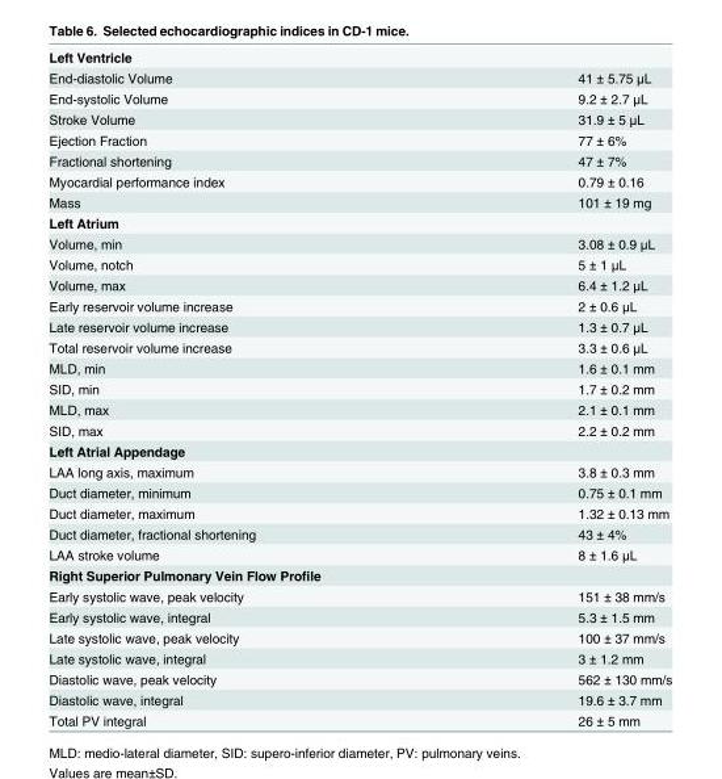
<table><tbody><tr><td colspan="2">Left Ventricle</td></tr><tr><td>End-diastolic Volume</td><td>41 ± 5.75 μL</td></tr><tr><td>End-systolic Volume</td><td>9.2 ± 2.7 μL</td></tr><tr><td>Stroke Volume</td><td>31.9 ± 5 μL</td></tr><tr><td>Ejection Fraction</td><td>77 ± 6%</td></tr><tr><td>Fractional shortening</td><td>47 ± 7%</td></tr><tr><td>Myocardial performance index</td><td>0.79 ± 0.16</td></tr><tr><td>Mass</td><td>101 ± 19 mg</td></tr><tr><td colspan="2">Left Atrium</td></tr><tr><td>Volume, min</td><td>3.08 ± 0.9 μL</td></tr><tr><td>Volume, notch</td><td>5 ± 1 μL</td></tr><tr><td>Volume, max</td><td>6.4 ± 1.2 μL</td></tr><tr><td>Early reservoir volume increase</td><td>2 ± 0.6 μL</td></tr><tr><td>Late reservoir volume increase</td><td>1.3 ± 0.7 μL</td></tr><tr><td>Total reservoir volume increase</td><td>3.3 ± 0.6 μL</td></tr><tr><td>MLD, min</td><td>1.6 ± 0.1 mm</td></tr><tr><td>SID, min</td><td>1.7 ± 0.2 mm</td></tr><tr><td>MLD, max</td><td>2.1 ± 0.1 mm</td></tr><tr><td>SID, max</td><td>2.2 ± 0.2 mm</td></tr><tr><td colspan="2">Left Atrial Appendage</td></tr><tr><td>LAA long axis, maximum</td><td>3.8 ± 0.3 mm</td></tr><tr><td>Duct diameter, minimum</td><td>0.75 ± 0.1 mm</td></tr><tr><td>Duct diameter, maximum</td><td>1.32 ± 0.13 mm</td></tr><tr><td>Duct diameter, fractional shortening</td><td>43 ± 4%</td></tr><tr><td>LAA stroke volume</td><td>8 ± 1.6 μL</td></tr><tr><td colspan="2">Right Superior Pulmonary Vein Flow Profile</td></tr><tr><td>Early systolic wave, peak velocity</td><td>151 ± 38 mm/s</td></tr><tr><td>Early systolic wave, integral</td><td>5.3 ± 1.5 mm</td></tr><tr><td>Late systolic wave, peak velocity</td><td>100 ± 37 mm/s</td></tr><tr><td>Late systolic wave, integral</td><td>3 ± 1.2 mm</td></tr><tr><td>Diastolic wave, peak velocity</td><td>562 ± 130 mm/s</td></tr><tr><td>Diastolic wave, integral</td><td>19.6 ± 3.7 mm</td></tr><tr><td>Total PV integral</td><td>26 ± 5 mm</td></tr></tbody></table>